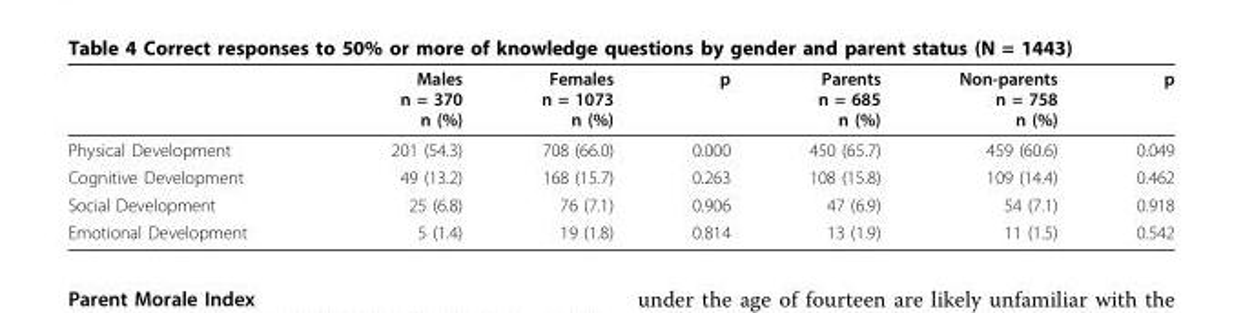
<table><thead><tr><td></td><td>Males n = 370 n (%)</td><td>Females n = 1073 n (%)</td><td>p</td><td>Parents n = 685 n (%)</td><td>Non-parents n = 758 n (%)</td><td>p</td></tr></thead><tbody><tr><td>Physical Development</td><td>201 (54.3)</td><td>708 (66.0)</td><td>0.000</td><td>450 (65.7)</td><td>459 (60.6)</td><td>0.049</td></tr><tr><td>Cognitive Development</td><td>49 (13.2)</td><td>168 (15.7)</td><td>0.263</td><td>108 (15.8)</td><td>109 (14.4)</td><td>0.462</td></tr><tr><td>Social Development</td><td>25 (6.8)</td><td>76 (7.1)</td><td>0.906</td><td>47 (6.9)</td><td>54 (7.1)</td><td>0.918</td></tr><tr><td>Emotional Development</td><td>5 (1.4)</td><td>19 (1.8)</td><td>0.814</td><td>13 (1.9)</td><td>11 (1.5)</td><td>0.542</td></tr></tbody></table>